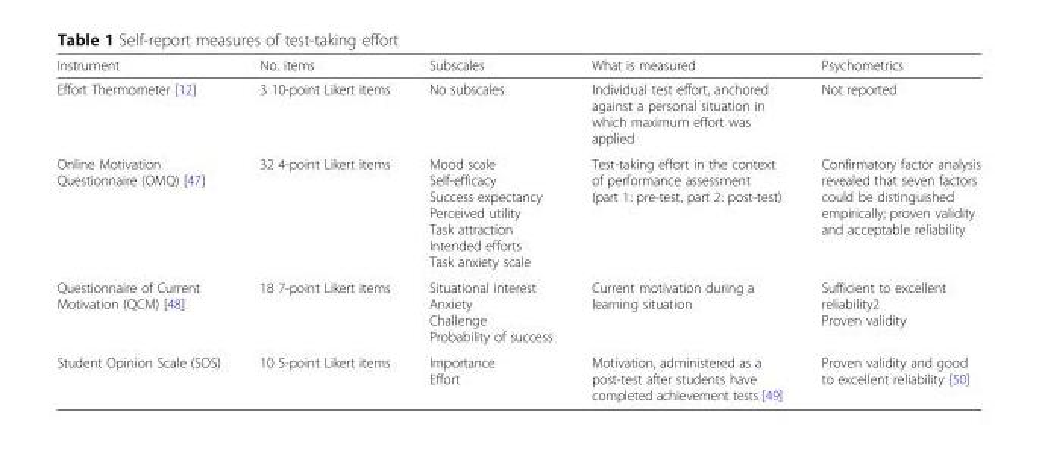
<table><thead><tr><td>Instrument</td><td>No. items</td><td>Subscales</td><td>What is measured</td><td>Psychometrics</td></tr></thead><tbody><tr><td>Effort Thermometer [12]</td><td>3 10-point Likert items</td><td>No subscales</td><td>Individual test effort, anchored against a personal situation in which maximum effort was applied</td><td>Not reported</td></tr><tr><td>Online Motivation Questionnaire (OMQ) [47]</td><td>32 4-point Likert items</td><td>Mood scale Self-efficacy Success expectancy Perceived utility Task attraction Intended efforts Task anxiety scale</td><td>Test-taking effort in the context of performance assessment (part 1: pre-test, part 2: post-test)</td><td>Confirmatory factor analysis revealed that seven factors could be distinguished empirically; proven validity and acceptable reliability</td></tr><tr><td>Questionnaire of Current Motivation (QCM) [48]</td><td>18 7-point Likert items</td><td>Situational interest Anxiety Challenge Probability of success</td><td>Current motivation during a learning situation</td><td>Sufficient to excellent reliability2 Proven validity</td></tr><tr><td>Student Opinion Scale (SOS)</td><td>10 5-point Likert items</td><td>Importance Effort</td><td>Motivation, administered as a post-test after students have completed achievement tests [49]</td><td>Proven validity and good to excellent reliability [50]</td></tr></tbody></table>